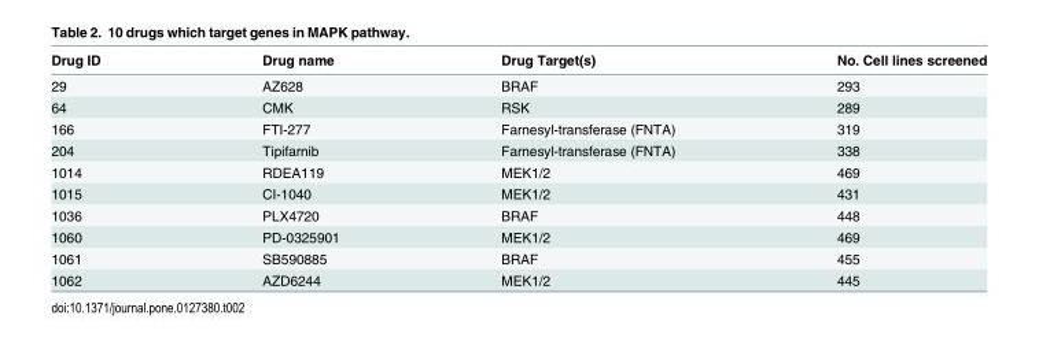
<table><thead><tr><td>Drug ID</td><td>Drug name</td><td>Drug Target(s)</td><td>No. Cell lines screened</td></tr></thead><tbody><tr><td>29</td><td>AZ628</td><td>BRAF</td><td>293</td></tr><tr><td>64</td><td>CMK</td><td>RSK</td><td>289</td></tr><tr><td>166</td><td>FTI-277</td><td>Farnesyl-transferase (FNTA)</td><td>319</td></tr><tr><td>204</td><td>Tipifarnib</td><td>Farnesyl-transferase (FNTA)</td><td>338</td></tr><tr><td>1014</td><td>RDEA119</td><td>MEK1/2</td><td>469</td></tr><tr><td>1015</td><td>CI-1040</td><td>MEK1/2</td><td>431</td></tr><tr><td>1036</td><td>PLX4720</td><td>BRAF</td><td>448</td></tr><tr><td>1060</td><td>PD-0325901</td><td>MEK1/2</td><td>469</td></tr><tr><td>1061</td><td>SB590885</td><td>BRAF</td><td>455</td></tr><tr><td>1062</td><td>AZD6244</td><td>MEK1/2</td><td>445</td></tr></tbody></table>